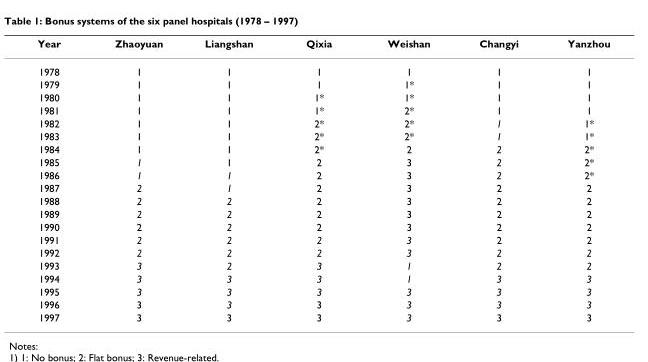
<table><thead><tr><td>Year</td><td>Zhaoyuan</td><td>Liangshan</td><td>Qixia</td><td>Weishan</td><td>Changyi</td><td>Yanzhou</td></tr></thead><tbody><tr><td>1978</td><td>1</td><td>1</td><td>1</td><td>1</td><td>1</td><td>1</td></tr><tr><td>1979</td><td>1</td><td>1</td><td>1</td><td>1*</td><td>1</td><td>1</td></tr><tr><td>1980</td><td>1</td><td>1</td><td>1*</td><td>1*</td><td>1</td><td>1</td></tr><tr><td>1981</td><td>1</td><td>1</td><td>1*</td><td>2*</td><td>1</td><td>1</td></tr><tr><td>1982</td><td>1</td><td>1</td><td>2*</td><td>2*</td><td>1</td><td>1*</td></tr><tr><td>1983</td><td>1</td><td>1</td><td>2*</td><td>2*</td><td>1</td><td>1*</td></tr><tr><td>1984</td><td>1</td><td>1</td><td>2*</td><td>2</td><td>2</td><td>2*</td></tr><tr><td>1985</td><td>1</td><td>1</td><td>2</td><td>3</td><td>2</td><td>2*</td></tr><tr><td>1986</td><td>1</td><td>1</td><td>2</td><td>3</td><td>2</td><td>2*</td></tr><tr><td>1987</td><td>2</td><td>1</td><td>2</td><td>3</td><td>2</td><td>2</td></tr><tr><td>1988</td><td>2</td><td>2</td><td>2</td><td>3</td><td>2</td><td>2</td></tr><tr><td>1989</td><td>2</td><td>2</td><td>2</td><td>3</td><td>2</td><td>2</td></tr><tr><td>1990</td><td>2</td><td>2</td><td>2</td><td>3</td><td>2</td><td>2</td></tr><tr><td>1991</td><td>2</td><td>2</td><td>2</td><td>3</td><td>2</td><td>2</td></tr><tr><td>1992</td><td>2</td><td>2</td><td>2</td><td>3</td><td>2</td><td>2</td></tr><tr><td>1993</td><td>3</td><td>2</td><td>3</td><td>1</td><td>2</td><td>2</td></tr><tr><td>1994</td><td>3</td><td>3</td><td>3</td><td>1</td><td>3</td><td>3</td></tr><tr><td>1995</td><td>3</td><td>3</td><td>3</td><td>3</td><td>3</td><td>3</td></tr><tr><td>1996</td><td>3</td><td>3</td><td>3</td><td>3</td><td>3</td><td>3</td></tr><tr><td>1997</td><td>3</td><td>3</td><td>3</td><td>3</td><td>3</td><td>3</td></tr></tbody></table>